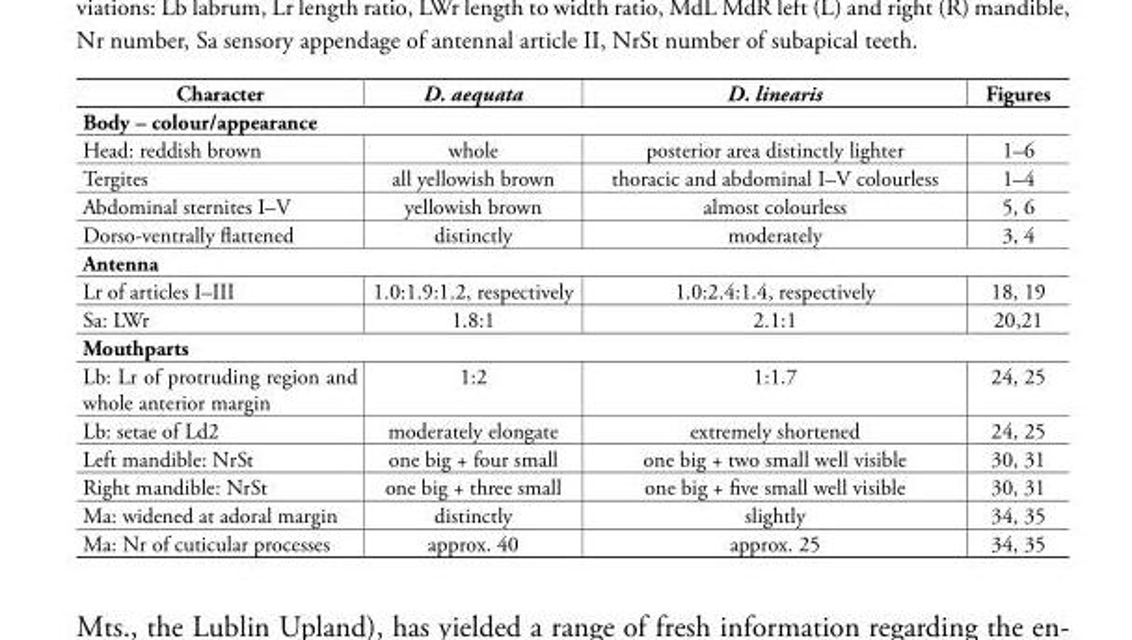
<table><tbody><tr><td>Character</td><td>D. aequata</td><td>D. linearis</td><td>Figures</td></tr><tr><td colspan="4">Body – colour/appearance</td></tr><tr><td>Head: reddish brown</td><td>whole</td><td>posterior area distinctly lighter</td><td>1–6</td></tr><tr><td>Tergites</td><td>all yellowish brown</td><td>thoracic and abdominal I–V colourless</td><td>1–4</td></tr><tr><td>Abdominal sternites I–V</td><td>yellowish brown</td><td>almost colourless</td><td>5, 6</td></tr><tr><td>Dorso-ventrally flattened</td><td>distinctly</td><td>moderately</td><td>3, 4</td></tr><tr><td colspan="4">Antenna</td></tr><tr><td>Lr of articles I–III</td><td>1.0:1.9:1.2, respectively</td><td>1.0:2.4:1.4, respectively</td><td>18, 19</td></tr><tr><td>Sa: LWr</td><td>1.8:1</td><td>2.1:1</td><td>20,21</td></tr><tr><td colspan="4">Mouthparts</td></tr><tr><td>Lb: Lr of protruding region and whole anterior margin</td><td>1:2</td><td>1:1.7</td><td>24, 25</td></tr><tr><td>Lb: setae of Ld2</td><td>moderately elongate</td><td>extremely shortened</td><td>24, 25</td></tr><tr><td>Left mandible: NrSt</td><td>one big + four small</td><td>one big + two small well visible</td><td>30, 31</td></tr><tr><td>Right mandible: NrSt</td><td>one big + three small</td><td>one big + five small well visible</td><td>30, 31</td></tr><tr><td>Ma: widened at adoral margin</td><td>distinctly</td><td>slightly</td><td>34, 35</td></tr><tr><td>Ma: Nr of cuticular processes</td><td>approx. 40</td><td>approx. 25</td><td>34, 35</td></tr></tbody></table>